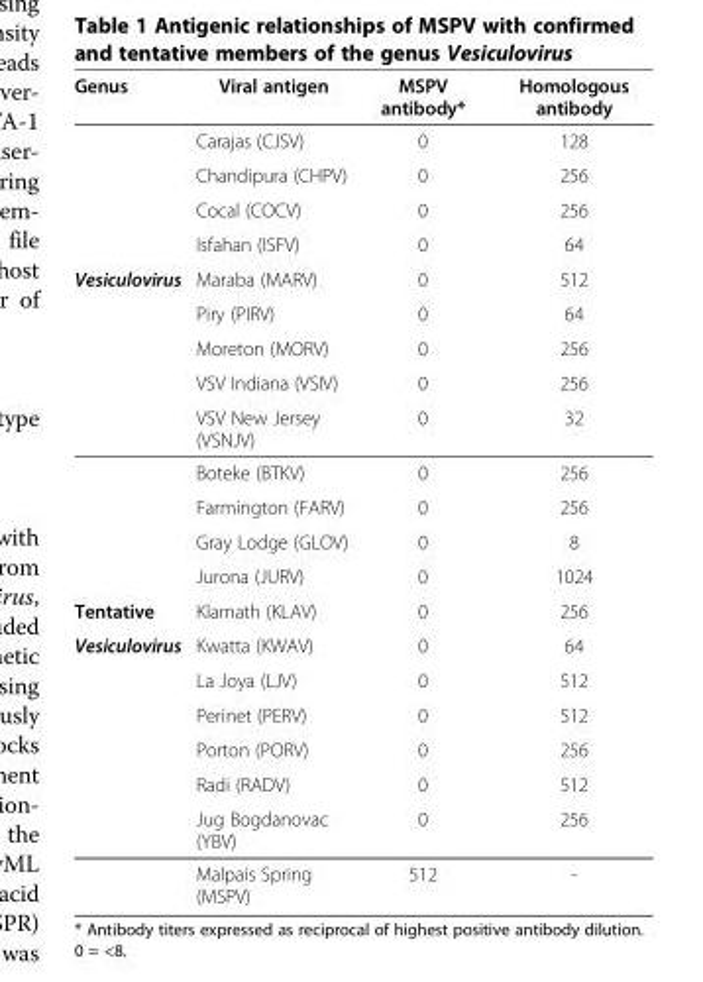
<table><thead><tr><td>Genus</td><td>Viral antigen</td><td>MSPV antibody*</td><td>Homologous antibody</td></tr></thead><tbody><tr><td></td><td>Carajas (CJSV)</td><td>0</td><td>128</td></tr><tr><td></td><td>Chandipura (CHPV)</td><td>0</td><td>256</td></tr><tr><td></td><td>Cocal (COCV)</td><td>0</td><td>256</td></tr><tr><td></td><td>Isfahan (ISFV)</td><td>0</td><td>64</td></tr><tr><td rowspan="9">Vesiculovirus</td><td>Maraba (MARV)</td><td>0</td><td>512</td></tr><tr><td>Piry (PIRV)</td><td>0</td><td>64</td></tr><tr><td>Moreton (MORV)</td><td>0</td><td>256</td></tr><tr><td>VSV Indiana (VSIV)</td><td>0</td><td>256</td></tr><tr><td>VSV New Jersey (VSNJV)</td><td>0</td><td>32</td></tr><tr><td>Boteke (BTKV)</td><td>0</td><td>256</td></tr><tr><td>Farmington (FARV)</td><td>0</td><td>256</td></tr><tr><td>Gray Lodge (GLOV)</td><td>0</td><td>8</td></tr><tr><td>Jurona (JURV)</td><td>0</td><td>1024</td></tr><tr><td>Tentative</td><td>Klamath (KLAV)</td><td>0</td><td>256</td></tr><tr><td rowspan="7">Vesiculovirus</td><td>Kwatta (KWAV)</td><td>0</td><td>64</td></tr><tr><td>La Joya (LJV)</td><td>0</td><td>512</td></tr><tr><td>Perinet (PERV)</td><td>0</td><td>512</td></tr><tr><td>Porton (PORV)</td><td>0</td><td>256</td></tr><tr><td>Radi (RADV)</td><td>0</td><td>512</td></tr><tr><td>Jug Bogdanovac (YBV)</td><td>0</td><td>256</td></tr><tr><td>Malpais Spring (MSPV)</td><td>512</td><td>-</td></tr></tbody></table>